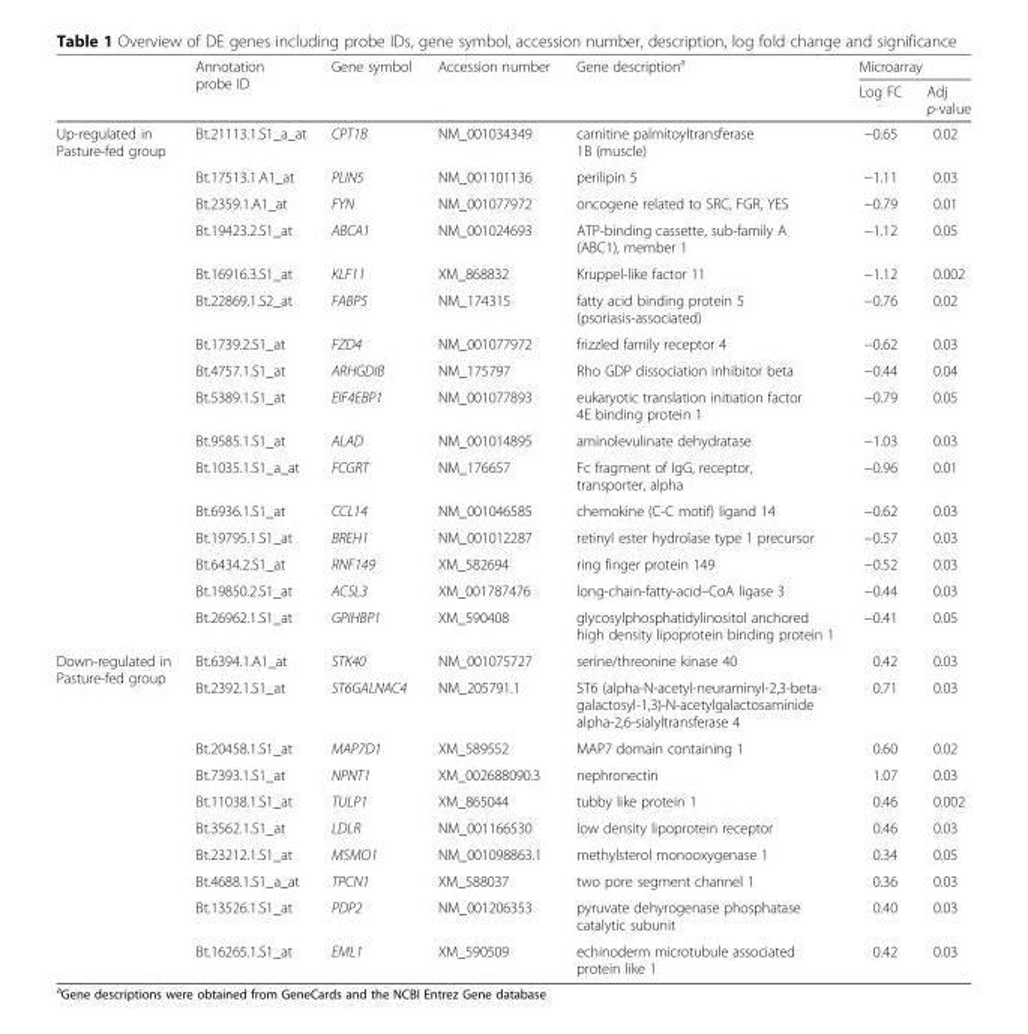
<table><thead><tr><td rowspan="2"></td><td rowspan="2">Annotation probe ID</td><td rowspan="2">Gene symbol</td><td rowspan="2">Accession number</td><td rowspan="2">Gene description<sup>a</sup></td><td colspan="2">Microarray</td></tr><tr><td>Log FC</td><td>Adj p-value</td></tr></thead><tbody><tr><td rowspan="16">Up-regulated in Pasture-fed group</td><td>Bt.21113.1.S1_a_at</td><td>CPT1B</td><td>NM_001034349</td><td>carnitine palmitoyltransferase 1B (muscle)</td><td>−0.65</td><td>0.02</td></tr><tr><td>Bt.17513.1.A1_at</td><td>PLIN5</td><td>NM_001101136</td><td>perilipin 5</td><td>−1.11</td><td>0.03</td></tr><tr><td>Bt.2359.1.A1_at</td><td>FYN</td><td>NM_001077972</td><td>oncogene related to SRC, FGR, YES</td><td>−0.79</td><td>0.01</td></tr><tr><td>Bt.19423.2.S1_at</td><td>ABCA1</td><td>NM_001024693</td><td>ATP-binding cassette, sub-family A (ABC1), member 1</td><td>−1.12</td><td>0.05</td></tr><tr><td>Bt.16916.3.S1_at</td><td>KLF11</td><td>XM_868832</td><td>Kruppel-like factor 11</td><td>−1.12</td><td>0.002</td></tr><tr><td>Bt.22869.1.S2_at</td><td>FABP5</td><td>NM_174315</td><td>fatty acid binding protein 5 (psoriasis-associated)</td><td>−0.76</td><td>0.02</td></tr><tr><td>Bt.1739.2.S1_at</td><td>FZD4</td><td>NM_001077972</td><td>frizzled family receptor 4</td><td>−0.62</td><td>0.03</td></tr><tr><td>Bt.4757.1.S1_at</td><td>ARHGDIB</td><td>NM_175797</td><td>Rho GDP dissociation inhibitor beta</td><td>−0.44</td><td>0.04</td></tr><tr><td>Bt.5389.1.S1_at</td><td>EIF4EBP1</td><td>NM_001077893</td><td>eukaryotic translation initiation factor 4E binding protein 1</td><td>−0.79</td><td>0.05</td></tr><tr><td>Bt.9585.1.S1_at</td><td>ALAD</td><td>NM_001014895</td><td>aminolevulinate dehydratase</td><td>−1.03</td><td>0.03</td></tr><tr><td>Bt.1035.1.S1_a_at</td><td>FCGRT</td><td>NM_176657</td><td>Fc fragment of IgG, receptor, transporter, alpha</td><td>−0.96</td><td>0.01</td></tr><tr><td>Bt.6936.1.S1_at</td><td>CCL14</td><td>NM_001046585</td><td>chemokine (C-C motif) ligand 14</td><td>−0.62</td><td>0.03</td></tr><tr><td>Bt.19795.1.S1_at</td><td>BREH1</td><td>NM_001012287</td><td>retinyl ester hydrolase type 1 precursor</td><td>−0.57</td><td>0.03</td></tr><tr><td>Bt.6434.2.S1_at</td><td>RNF149</td><td>XM_582694</td><td>ring finger protein 149</td><td>−0.52</td><td>0.03</td></tr><tr><td>Bt.19850.2.S1_at</td><td>ACSL3</td><td>XM_001787476</td><td>long-chain-fatty-acid–CoA ligase 3</td><td>−0.44</td><td>0.03</td></tr><tr><td>Bt.26962.1.S1_at</td><td>GPIHBP1</td><td>XM_590408</td><td>glycosylphosphatidylinositol anchored high density lipoprotein binding protein 1</td><td>−0.41</td><td>0.05</td></tr><tr><td rowspan="10">Down-regulated in Pasture-fed group</td><td>Bt.6394.1.A1_at</td><td>STK40</td><td>NM_001075727</td><td>serine/threonine kinase 40</td><td>0.42</td><td>0.03</td></tr><tr><td>Bt.2392.1.S1_at</td><td>ST6GALNAC4</td><td>NM_205791.1</td><td>ST6 (alpha-N-acetyl-neuraminyl-2,3-beta- galactosyl-1,3)-N-acetylgalactosaminide alpha-2,6-sialyltransferase 4</td><td>0.71</td><td>0.03</td></tr><tr><td>Bt.20458.1.S1_at</td><td>MAP7D1</td><td>XM_589552</td><td>MAP7 domain containing 1</td><td>0.60</td><td>0.02</td></tr><tr><td>Bt.7393.1.S1_at</td><td>NPNT1</td><td>XM_002688090.3</td><td>nephronectin</td><td>1.07</td><td>0.03</td></tr><tr><td>Bt.11038.1.S1_at</td><td>TULP1</td><td>XM_865044</td><td>tubby like protein 1</td><td>0.46</td><td>0.002</td></tr><tr><td>Bt.3562.1.S1_at</td><td>LDLR</td><td>NM_001166530</td><td>low density lipoprotein receptor</td><td>0.46</td><td>0.03</td></tr><tr><td>Bt.23212.1.S1_at</td><td>MSMO1</td><td>NM_001098863.1</td><td>methylsterol monooxygenase 1</td><td>0.34</td><td>0.05</td></tr><tr><td>Bt.4688.1.S1_a_at</td><td>TPCN1</td><td>XM_588037</td><td>two pore segment channel 1</td><td>0.36</td><td>0.03</td></tr><tr><td>Bt.13526.1.S1_at</td><td>PDP2</td><td>NM_001206353</td><td>pyruvate dehyrogenase phosphatase catalytic subunit</td><td>0.40</td><td>0.03</td></tr><tr><td>Bt.16265.1.S1_at</td><td>EML1</td><td>XM_590509</td><td>echinoderm microtubule associated protein like 1</td><td>0.42</td><td>0.03</td></tr></tbody></table>